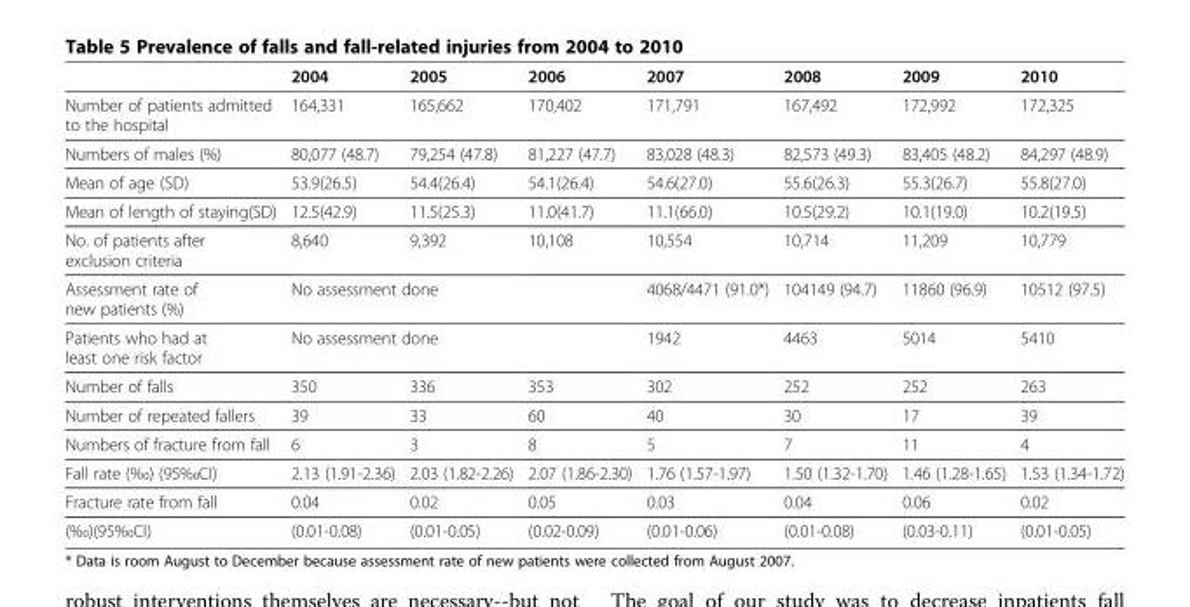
<table><thead><tr><td></td><td>2004</td><td>2005</td><td>2006</td><td>2007</td><td>2008</td><td>2009</td><td>2010</td></tr></thead><tbody><tr><td>Number of patients admitted to the hospital</td><td>164,331</td><td>165,662</td><td>170,402</td><td>171,791</td><td>167,492</td><td>172,992</td><td>172,325</td></tr><tr><td>Numbers of males (%)</td><td>80,077 (48.7)</td><td>79,254 (47.8)</td><td>81,227 (47.7)</td><td>83,028 (48.3)</td><td>82,573 (49.3)</td><td>83,405 (48.2)</td><td>84,297 (48.9)</td></tr><tr><td>Mean of age (SD)</td><td>53.9(26.5)</td><td>54.4(26.4)</td><td>54.1(26.4)</td><td>54.6(27.0)</td><td>55.6(26.3)</td><td>55.3(26.7)</td><td>55.8(27.0)</td></tr><tr><td>Mean of length of staying(SD)</td><td>12.5(42.9)</td><td>11.5(25.3)</td><td>11.0(41.7)</td><td>11.1(66.0)</td><td>10.5(29.2)</td><td>10.1(19.0)</td><td>10.2(19.5)</td></tr><tr><td>No. of patients after exclusion criteria</td><td>8,640</td><td>9,392</td><td>10,108</td><td>10,554</td><td>10,714</td><td>11,209</td><td>10,779</td></tr><tr><td>Assessment rate of new patients (%)</td><td colspan="3">No assessment done</td><td>4068/4471 (91.0*)</td><td>104149 (94.7)</td><td>11860 (96.9)</td><td>10512 (97.5)</td></tr><tr><td>Patients who had at least one risk factor</td><td colspan="3">No assessment done</td><td>1942</td><td>4463</td><td>5014</td><td>5410</td></tr><tr><td>Number of falls</td><td>350</td><td>336</td><td>353</td><td>302</td><td>252</td><td>252</td><td>263</td></tr><tr><td>Number of repeated fallers</td><td>39</td><td>33</td><td>60</td><td>40</td><td>30</td><td>17</td><td>39</td></tr><tr><td>Numbers of fracture from fall</td><td>6</td><td>3</td><td>8</td><td>5</td><td>7</td><td>11</td><td>4</td></tr><tr><td>Fall rate (‰) (95‰CI)</td><td>2.13 (1.91-2.36)</td><td>2.03 (1.82-2.26)</td><td>2.07 (1.86-2.30)</td><td>1.76 (1.57-1.97)</td><td>1.50 (1.32-1.70)</td><td>1.46 (1.28-1.65)</td><td>1.53 (1.34-1.72)</td></tr><tr><td>Fracture rate from fall</td><td>0.04</td><td>0.02</td><td>0.05</td><td>0.03</td><td>0.04</td><td>0.06</td><td>0.02</td></tr><tr><td>(‰)(95‰CI)</td><td>(0.01-0.08)</td><td>(0.01-0.05)</td><td>(0.02-0.09)</td><td>(0.01-0.06)</td><td>(0.01-0.08)</td><td>(0.03-0.11)</td><td>(0.01-0.05)</td></tr></tbody></table>